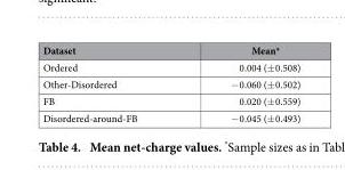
<table><thead><tr><td>Dataset</td><td>Mean*</td></tr></thead><tbody><tr><td>Ordered</td><td>0.004 (± 0.508)</td></tr><tr><td>Other-Disordered</td><td>− 0.060 (± 0.502)</td></tr><tr><td>FB</td><td>0.020 (± 0.559)</td></tr><tr><td>Disordered-around-FB</td><td>− 0.045 (± 0.493)</td></tr></tbody></table>